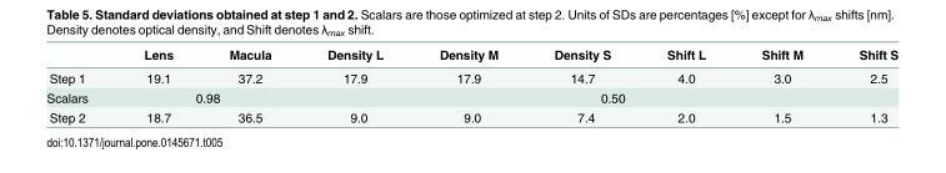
<table><thead><tr><td></td><td>Lens</td><td>Macula</td><td>Density L</td><td>Density M</td><td>Density S</td><td>Shift L</td><td>Shift M</td><td>Shift S</td></tr></thead><tbody><tr><td>Step 1</td><td>19.1</td><td>37.2</td><td>17.9</td><td>17.9</td><td>14.7</td><td>4.0</td><td>3.0</td><td>2.5</td></tr><tr><td>Scalars</td><td colspan="2">0.98</td><td colspan="6">0.50</td></tr><tr><td>Step 2</td><td>18.7</td><td>36.5</td><td>9.0</td><td>9.0</td><td>7.4</td><td>2.0</td><td>1.5</td><td>1.3</td></tr></tbody></table>